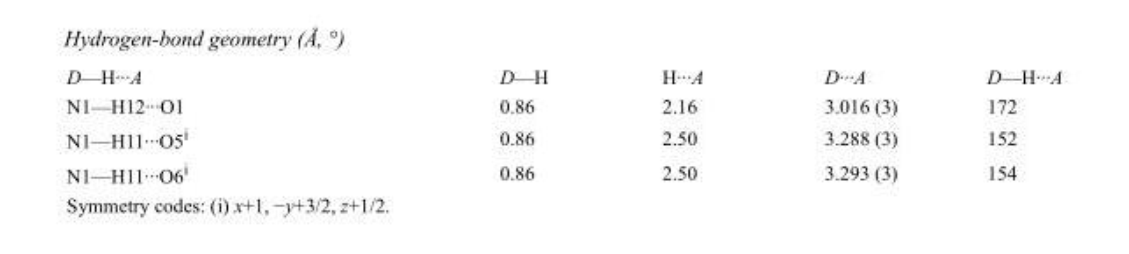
<table><tbody><tr><td>D—H···A</td><td>D—H</td><td>H···A</td><td>D···A</td><td>D—H···A</td></tr><tr><td>N1—H12···O1</td><td>0.86</td><td>2.16</td><td>3.016 (3)</td><td>172</td></tr><tr><td>N1—H11···O5<sup>i</sup></td><td>0.86</td><td>2.50</td><td>3.288 (3)</td><td>152</td></tr><tr><td>N1—H11···O6<sup>i</sup></td><td>0.86</td><td>2.50</td><td>3.293 (3)</td><td>154</td></tr></tbody></table>